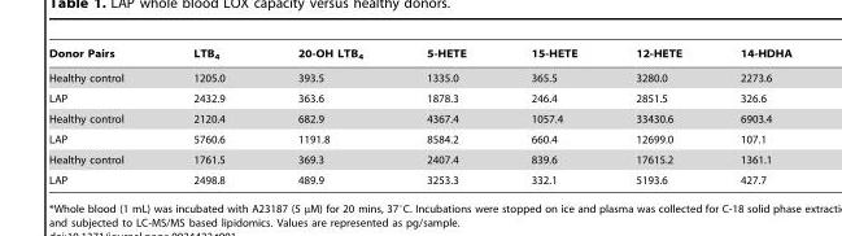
<table><thead><tr><td>Donor Pairs</td><td>LTB<sub>4</sub></td><td>20-OH LTB<sub>4</sub></td><td>5-HETE</td><td>15-HETE</td><td>12-HETE</td><td>14-HDHA</td></tr></thead><tbody><tr><td>Healthy control</td><td>1205.0</td><td>393.5</td><td>1335.0</td><td>365.5</td><td>3280.0</td><td>2273.6</td></tr><tr><td>LAP</td><td>2432.9</td><td>363.6</td><td>1878.3</td><td>246.4</td><td>2851.5</td><td>326.6</td></tr><tr><td>Healthy control</td><td>2120.4</td><td>682.9</td><td>4367.4</td><td>1057.4</td><td>33430.6</td><td>6903.4</td></tr><tr><td>LAP</td><td>5760.6</td><td>1191.8</td><td>8584.2</td><td>660.4</td><td>12699.0</td><td>107.1</td></tr><tr><td>Healthy control</td><td>1761.5</td><td>369.3</td><td>2407.4</td><td>839.6</td><td>17615.2</td><td>1361.1</td></tr><tr><td>LAP</td><td>2498.8</td><td>489.9</td><td>3253.3</td><td>332.1</td><td>5193.6</td><td>427.7</td></tr></tbody></table>